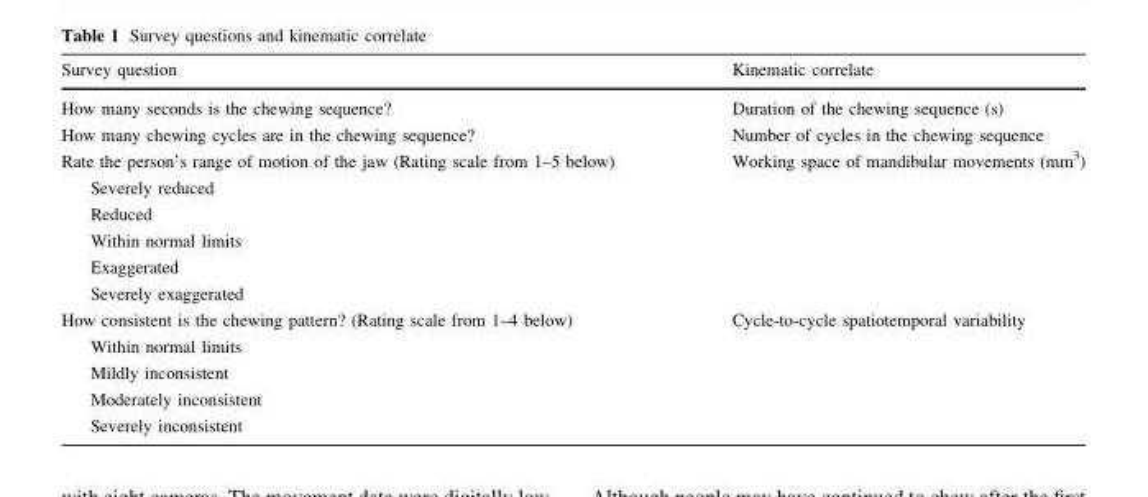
<table><thead><tr><td>Survey question</td><td>Kinematic correlate</td></tr></thead><tbody><tr><td>How many seconds is the chewing sequence?</td><td>Duration of the chewing sequence (s)</td></tr><tr><td>How many chewing cycles are in the chewing sequence?</td><td>Number of cycles in the chewing sequence</td></tr><tr><td>Rate the person’s range of motion of the jaw (Rating scale from 1–5 below)</td><td>Working space of mandibular movements (mm<sup>3</sup>)</td></tr><tr><td colspan="2">Severely reduced</td></tr><tr><td colspan="2">Reduced</td></tr><tr><td colspan="2">Within normal limits</td></tr><tr><td colspan="2">Exaggerated</td></tr><tr><td colspan="2">Severely exaggerated</td></tr><tr><td>How consistent is the chewing pattern? (Rating scale from 1–4 below)</td><td>Cycle-to-cycle spatiotemporal variability</td></tr><tr><td colspan="2">Within normal limits</td></tr><tr><td colspan="2">Mildly inconsistent</td></tr><tr><td colspan="2">Moderately inconsistent</td></tr><tr><td>Severely inconsistent</td><td></td></tr></tbody></table>